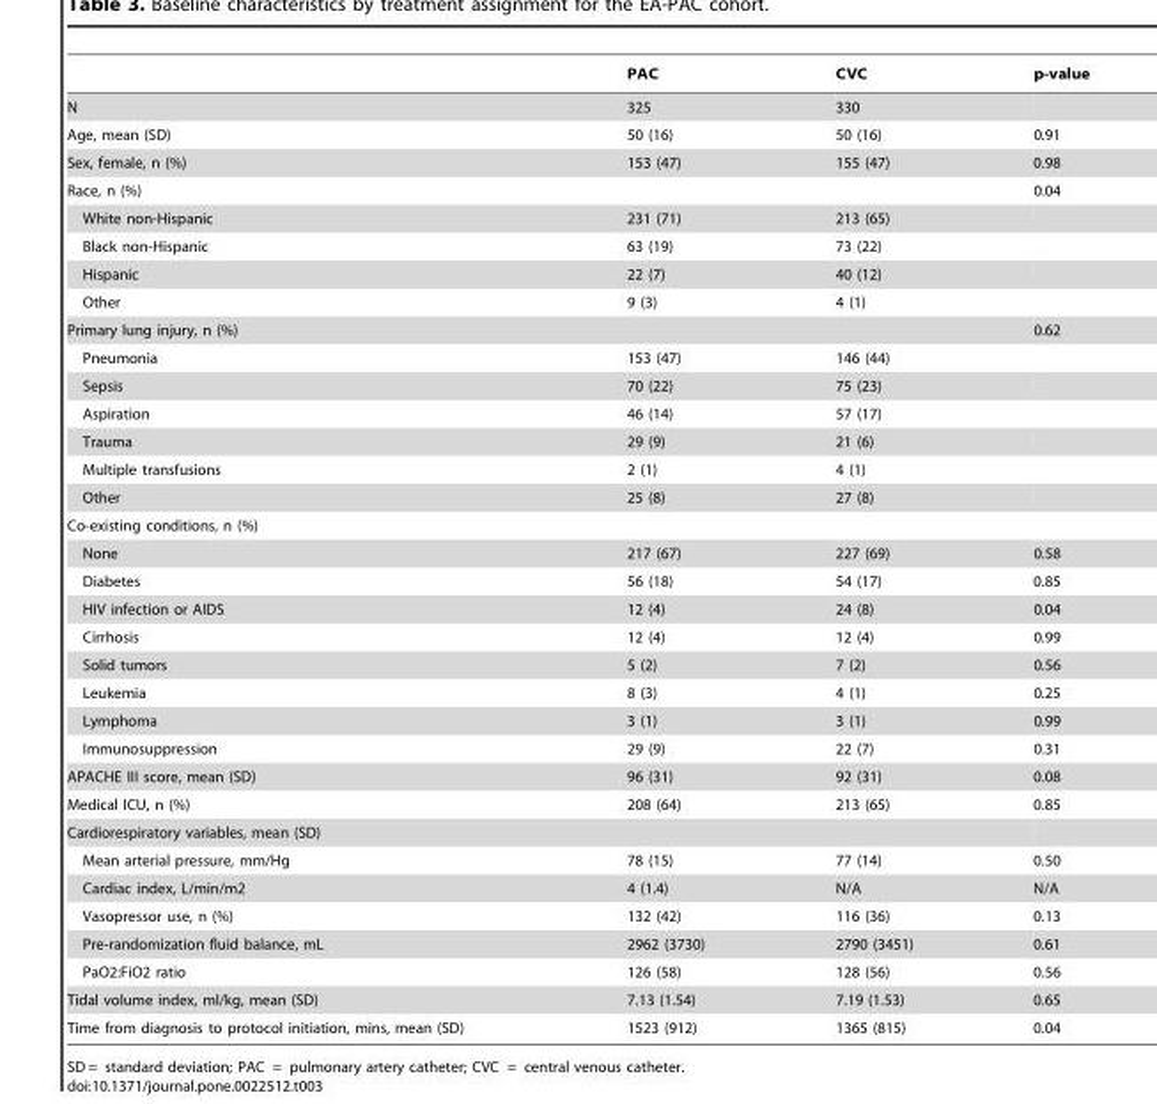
<table><thead><tr><td></td><td>PAC</td><td>CVC</td><td>p-value</td></tr></thead><tbody><tr><td>N</td><td>325</td><td>330</td><td></td></tr><tr><td>Age, mean (SD)</td><td>50 (16)</td><td>50 (16)</td><td>0.91</td></tr><tr><td>Sex, female, n (%)</td><td>153 (47)</td><td>155 (47)</td><td>0.98</td></tr><tr><td>Race, n (%)</td><td></td><td></td><td>0.04</td></tr><tr><td>White non-Hispanic</td><td>231 (71)</td><td>213 (65)</td><td></td></tr><tr><td>Black non-Hispanic</td><td>63 (19)</td><td>73 (22)</td><td></td></tr><tr><td>Hispanic</td><td>22 (7)</td><td>40 (12)</td><td></td></tr><tr><td>Other</td><td>9 (3)</td><td>4 (1)</td><td></td></tr><tr><td>Primary lung injury, n (%)</td><td></td><td></td><td>0.62</td></tr><tr><td>Pneumonia</td><td>153 (47)</td><td>146 (44)</td><td></td></tr><tr><td>Sepsis</td><td>70 (22)</td><td>75 (23)</td><td></td></tr><tr><td>Aspiration</td><td>46 (14)</td><td>57 (17)</td><td></td></tr><tr><td>Trauma</td><td>29 (9)</td><td>21 (6)</td><td></td></tr><tr><td>Multiple transfusions</td><td>2 (1)</td><td>4 (1)</td><td></td></tr><tr><td>Other</td><td>25 (8)</td><td>27 (8)</td><td></td></tr><tr><td colspan="4">Co-existing conditions, n (%)</td></tr><tr><td>None</td><td>217 (67)</td><td>227 (69)</td><td>0.58</td></tr><tr><td>Diabetes</td><td>56 (18)</td><td>54 (17)</td><td>0.85</td></tr><tr><td>HIV infection or AIDS</td><td>12 (4)</td><td>24 (8)</td><td>0.04</td></tr><tr><td>Cirrhosis</td><td>12 (4)</td><td>12 (4)</td><td>0.99</td></tr><tr><td>Solid tumors</td><td>5 (2)</td><td>7 (2)</td><td>0.56</td></tr><tr><td>Leukemia</td><td>8 (3)</td><td>4 (1)</td><td>0.25</td></tr><tr><td>Lymphoma</td><td>3 (1)</td><td>3 (1)</td><td>0.99</td></tr><tr><td>Immunosuppression</td><td>29 (9)</td><td>22 (7)</td><td>0.31</td></tr><tr><td>APACHE III score, mean (SD)</td><td>96 (31)</td><td>92 (31)</td><td>0.08</td></tr><tr><td>Medical ICU, n (%)</td><td>208 (64)</td><td>213 (65)</td><td>0.85</td></tr><tr><td colspan="4">Cardiorespiratory variables, mean (SD)</td></tr><tr><td>Mean arterial pressure, mm/Hg</td><td>78 (15)</td><td>77 (14)</td><td>0.50</td></tr><tr><td>Cardiac index, L/min/m2</td><td>4 (1.4)</td><td>N/A</td><td>N/A</td></tr><tr><td>Vasopressor use, n (%)</td><td>132 (42)</td><td>116 (36)</td><td>0.13</td></tr><tr><td>Pre-randomization fluid balance, mL</td><td>2962 (3730)</td><td>2790 (3451)</td><td>0.61</td></tr><tr><td>PaO2:FiO2 ratio</td><td>126 (58)</td><td>128 (56)</td><td>0.56</td></tr><tr><td>Tidal volume index, ml/kg, mean (SD)</td><td>7.13 (1.54)</td><td>7.19 (1.53)</td><td>0.65</td></tr><tr><td>Time from diagnosis to protocol initiation, mins, mean (SD)</td><td>1523 (912)</td><td>1365 (815)</td><td>0.04</td></tr></tbody></table>